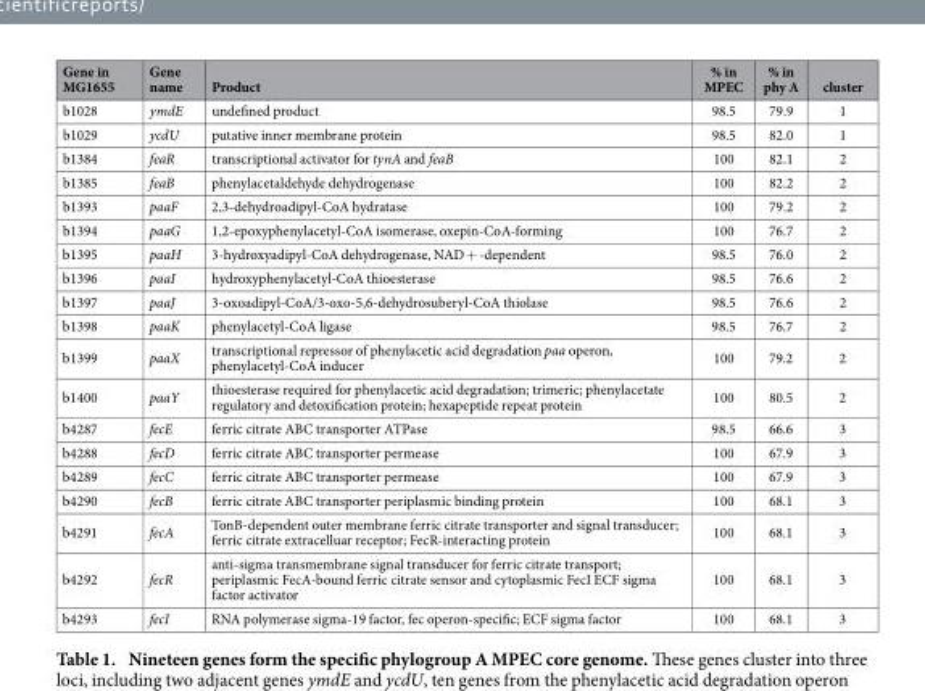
<table><thead><tr><td>Gene in MG1655</td><td>Gene name</td><td>Product</td><td>% in MPEC</td><td>% in phy A</td><td>cluster</td></tr></thead><tbody><tr><td>b1028</td><td>ymdE</td><td>undefined product</td><td>98.5</td><td>79.9</td><td>1</td></tr><tr><td>b1029</td><td>ycdU</td><td>putative inner membrane protein</td><td>98.5</td><td>82.0</td><td>1</td></tr><tr><td>b1384</td><td>feaR</td><td>transcriptional activator for tynA and feaB</td><td>100</td><td>82.1</td><td>2</td></tr><tr><td>b1385</td><td>feaB</td><td>phenylacetaldehyde dehydrogenase</td><td>100</td><td>82.2</td><td>2</td></tr><tr><td>b1393</td><td>paaF</td><td>2,3-dehydroadipyl-CoA hydratase</td><td>100</td><td>79.2</td><td>2</td></tr><tr><td>b1394</td><td>paaG</td><td>1,2-epoxyphenylacetyl-CoA isomerase, oxepin-CoA-forming</td><td>100</td><td>76.7</td><td>2</td></tr><tr><td>b1395</td><td>paaH</td><td>3-hydroxyadipyl-CoA dehydrogenase, NAD + -dependent</td><td>98.5</td><td>76.0</td><td>2</td></tr><tr><td>b1396</td><td>paaI</td><td>hydroxyphenylacetyl-CoA thioesterase</td><td>98.5</td><td>76.6</td><td>2</td></tr><tr><td>b1397</td><td>paaJ</td><td>3-oxoadipyl-CoA/3-oxo-5,6-dehydrosuberyl-CoA thiolase</td><td>98.5</td><td>76.6</td><td>2</td></tr><tr><td>b1398</td><td>paaK</td><td>phenylacetyl-CoA ligase</td><td>98.5</td><td>76.7</td><td>2</td></tr><tr><td>b1399</td><td>paaX</td><td>transcriptional repressor of phenylacetic acid degradation paa operon, phenylacetyl-CoA inducer</td><td>100</td><td>79.2</td><td>2</td></tr><tr><td>b1400</td><td>paaY</td><td>thioesterase required for phenylacetic acid degradation; trimeric; phenylacetate regulatory and detoxification protein; hexapeptide repeat protein</td><td>100</td><td>80.5</td><td>2</td></tr><tr><td>b4287</td><td>fecE</td><td>ferric citrate ABC transporter ATPase</td><td>98.5</td><td>66.6</td><td>3</td></tr><tr><td>b4288</td><td>fecD</td><td>ferric citrate ABC transporter permease</td><td>100</td><td>67.9</td><td>3</td></tr><tr><td>b4289</td><td>fecC</td><td>ferric citrate ABC transporter permease</td><td>100</td><td>67.9</td><td>3</td></tr><tr><td>b4290</td><td>fecB</td><td>ferric citrate ABC transporter periplasmic binding protein</td><td>100</td><td>68.1</td><td>3</td></tr><tr><td>b4291</td><td>fecA</td><td>TonB-dependent outer membrane ferric citrate transporter and signal transducer; ferric citrate extracelluar receptor; FecR-interacting protein</td><td>100</td><td>68.1</td><td>3</td></tr><tr><td>b4292</td><td>fecR</td><td>anti-sigma transmembrane signal transducer for ferric citrate transport; periplasmic FecA-bound ferric citrate sensor and cytoplasmic FecI ECF sigma factor activator</td><td>100</td><td>68.1</td><td>3</td></tr><tr><td>b4293</td><td>fecI</td><td>RNA polymerase sigma-19 factor, fec operon-specific; ECF sigma factor</td><td>100</td><td>68.1</td><td>3</td></tr></tbody></table>